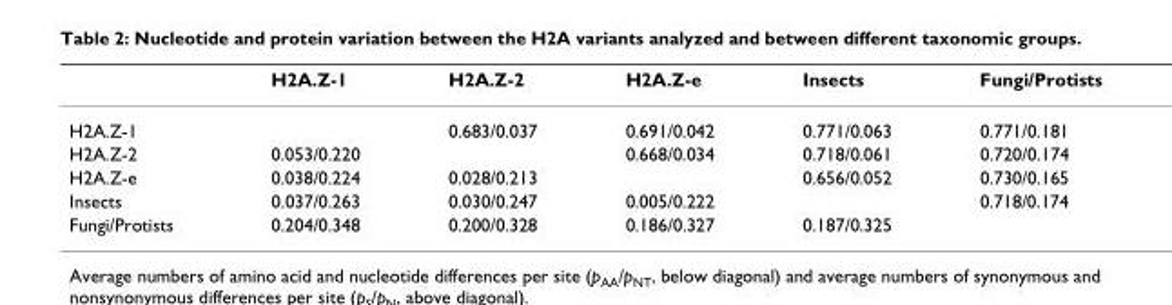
<table><thead><tr><td></td><td>H2A.Z-1</td><td>H2A.Z-2</td><td>H2A.Z-e</td><td>Insects</td><td>Fungi/Protists</td></tr></thead><tbody><tr><td>H2A.Z-1</td><td></td><td>0.683/0.037</td><td>0.691/0.042</td><td>0.771/0.063</td><td>0.771/0.181</td></tr><tr><td>H2A.Z-2</td><td>0.053/0.220</td><td></td><td>0.668/0.034</td><td>0.718/0.061</td><td>0.720/0.174</td></tr><tr><td>H2A.Z-e</td><td>0.038/0.224</td><td>0.028/0.213</td><td></td><td>0.656/0.052</td><td>0.730/0.165</td></tr><tr><td>Insects</td><td>0.037/0.263</td><td>0.030/0.247</td><td>0.005/0.222</td><td></td><td>0.718/0.174</td></tr><tr><td>Fungi/Protists</td><td>0.204/0.348</td><td>0.200/0.328</td><td>0.186/0.327</td><td>0.187/0.325</td><td></td></tr></tbody></table>